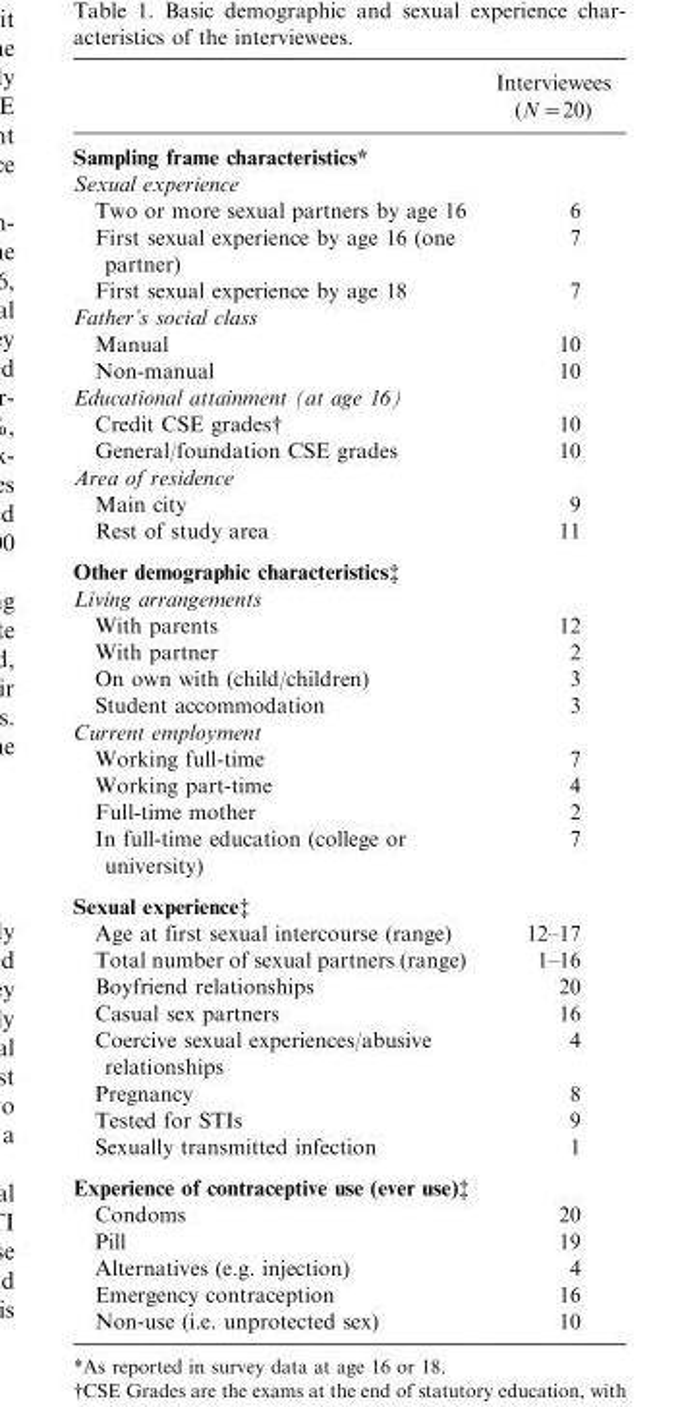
<table><thead><tr><td></td><td>Interviewees (N=20)</td></tr></thead><tbody><tr><td colspan="2">Sampling frame characteristics*</td></tr><tr><td colspan="2">Sexual experience</td></tr><tr><td>Two or more sexual partners by age 16</td><td>6</td></tr><tr><td>First sexual experience by age 16 (one partner)</td><td>7</td></tr><tr><td>First sexual experience by age 18</td><td>7</td></tr><tr><td colspan="2">Father’s social class</td></tr><tr><td>Manual</td><td>10</td></tr><tr><td>Non-manual</td><td>10</td></tr><tr><td colspan="2">Educational attainment (at age 16)</td></tr><tr><td>Credit CSE grades$</td><td>10</td></tr><tr><td>General/foundation CSE grades</td><td>10</td></tr><tr><td colspan="2">Area of residence</td></tr><tr><td>Main city</td><td>9</td></tr><tr><td>Rest of study area</td><td>11</td></tr><tr><td colspan="2">Other demographic characteristics%</td></tr><tr><td colspan="2">Living arrangements</td></tr><tr><td>With parents</td><td>12</td></tr><tr><td>With partner</td><td>2</td></tr><tr><td>On own with (child/children)</td><td>3</td></tr><tr><td>Student accommodation</td><td>3</td></tr><tr><td colspan="2">Current employment</td></tr><tr><td>Working full-time</td><td>7</td></tr><tr><td>Working part-time</td><td>4</td></tr><tr><td>Full-time mother</td><td>2</td></tr><tr><td>In full-time education (college or university)</td><td>7</td></tr><tr><td colspan="2">Sexual experience%</td></tr><tr><td>Age at first sexual intercourse (range)</td><td>12–17</td></tr><tr><td>Total number of sexual partners (range)</td><td>1–16</td></tr><tr><td>Boyfriend relationships</td><td>20</td></tr><tr><td>Casual sex partners</td><td>16</td></tr><tr><td>Coercive sexual experiences/abusive relationships</td><td>4</td></tr><tr><td>Pregnancy</td><td>8</td></tr><tr><td>Tested for STIs</td><td>9</td></tr><tr><td>Sexually transmitted infection</td><td>1</td></tr><tr><td colspan="2">Experience of contraceptive use (ever use)%</td></tr><tr><td>Condoms</td><td>20</td></tr><tr><td>Pill</td><td>19</td></tr><tr><td>Alternatives (e.g. injection)</td><td>4</td></tr><tr><td>Emergency contraception</td><td>16</td></tr><tr><td>Non-use (i.e. unprotected sex)</td><td>10</td></tr></tbody></table>